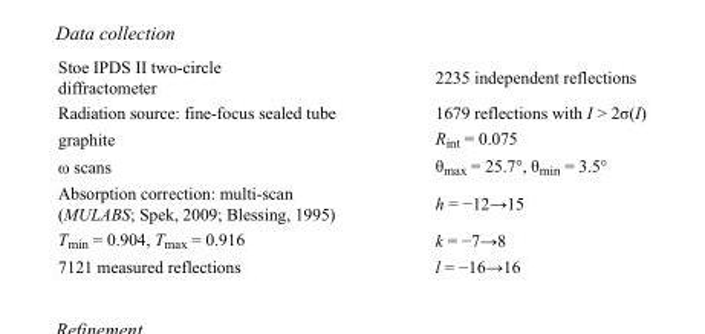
<table><tbody><tr><td>Stoe IPDS II two-circle diffractometer</td><td>2235 independent reflections</td></tr><tr><td>Radiation source: fine-focus sealed tube</td><td>1679 reflections with I &gt; 2σ(I)</td></tr><tr><td>graphite</td><td>R<sub>int</sub> = 0.075</td></tr><tr><td>ω scans</td><td>θ<sub>max</sub> = 25.7°, θ<sub>min</sub> = 3.5°</td></tr><tr><td>Absorption correction: multi-scan (MULABS; Spek, 2009; Blessing, 1995)</td><td>h = −12→15</td></tr><tr><td>T<sub>min</sub> = 0.904, T<sub>max</sub> = 0.916</td><td>k = −7→8</td></tr><tr><td>7121 measured reflections</td><td>l = −16→16</td></tr></tbody></table>